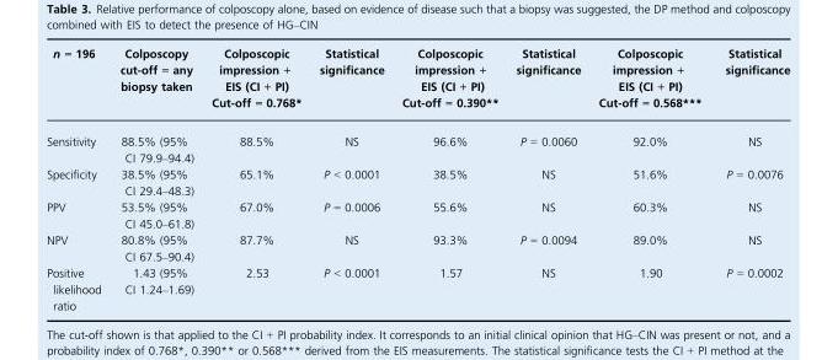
<table><thead><tr><td>n = 196</td><td>Colposcopy cut-off = any biopsy taken</td><td>Colposcopic impression + EIS (CI + PI) Cut-off = 0.768*</td><td>Statistical significance</td><td>Colposcopic impression + EIS (CI + PI) Cut-off = 0.390**</td><td>Statistical significance</td><td>Colposcopic impression + EIS (CI + PI) Cut-off = 0.568***</td><td>Statistical significance</td></tr></thead><tbody><tr><td>Sensitivity</td><td>88.5% (95% CI 79.9–94.4)</td><td>88.5%</td><td>NS</td><td>96.6%</td><td>P = 0.0060</td><td>92.0%</td><td>NS</td></tr><tr><td>Specificity</td><td>38.5% (95% CI 29.4–48.3)</td><td>65.1%</td><td>P &lt; 0.0001</td><td>38.5%</td><td>NS</td><td>51.6%</td><td>P = 0.0076</td></tr><tr><td>PPV</td><td>53.5% (95% CI 45.0–61.8)</td><td>67.0%</td><td>P = 0.0006</td><td>55.6%</td><td>NS</td><td>60.3%</td><td>NS</td></tr><tr><td>NPV</td><td>80.8% (95% CI 67.5–90.4)</td><td>87.7%</td><td>NS</td><td>93.3%</td><td>P = 0.0094</td><td>89.0%</td><td>NS</td></tr><tr><td>Positive likelihood ratio</td><td>1.43 (95% CI 1.24–1.69)</td><td>2.53</td><td>P &lt; 0.0001</td><td>1.57</td><td>NS</td><td>1.90</td><td>P = 0.0002</td></tr></tbody></table>